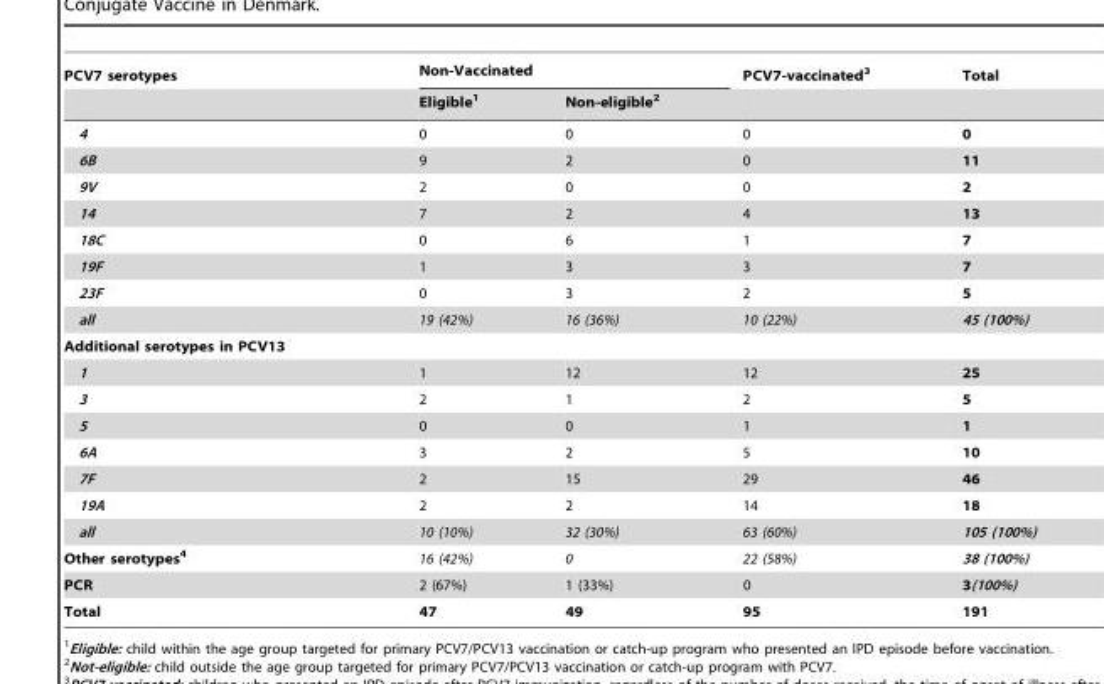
<table><thead><tr><td rowspan="2">PCV7 serotypes</td><td colspan="2">Non-Vaccinated</td><td rowspan="2">PCV7-vaccinated<sup>3</sup></td><td rowspan="2">Total</td></tr><tr><td>Eligible<sup>1</sup></td><td>Non-eligible<sup>2</sup></td></tr></thead><tbody><tr><td>4</td><td>0</td><td>0</td><td>0</td><td>0</td></tr><tr><td>6B</td><td>9</td><td>2</td><td>0</td><td>11</td></tr><tr><td>9V</td><td>2</td><td>0</td><td>0</td><td>2</td></tr><tr><td>14</td><td>7</td><td>2</td><td>4</td><td>13</td></tr><tr><td>18C</td><td>0</td><td>6</td><td>1</td><td>7</td></tr><tr><td>19F</td><td>1</td><td>3</td><td>3</td><td>7</td></tr><tr><td>23F</td><td>0</td><td>3</td><td>2</td><td>5</td></tr><tr><td>all</td><td>19 (42%)</td><td>16 (36%)</td><td>10 (22%)</td><td>45 (100%)</td></tr><tr><td colspan="5">Additional serotypes in PCV13</td></tr><tr><td>1</td><td>1</td><td>12</td><td>12</td><td>25</td></tr><tr><td>3</td><td>2</td><td>1</td><td>2</td><td>5</td></tr><tr><td>5</td><td>0</td><td>0</td><td>1</td><td>1</td></tr><tr><td>6A</td><td>3</td><td>2</td><td>5</td><td>10</td></tr><tr><td>7F</td><td>2</td><td>15</td><td>29</td><td>46</td></tr><tr><td>19A</td><td>2</td><td>2</td><td>14</td><td>18</td></tr><tr><td>all</td><td>10 (10%)</td><td>32 (30%)</td><td>63 (60%)</td><td>105 (100%)</td></tr><tr><td>Other serotypes4</td><td>16 (42%)</td><td>0</td><td>22 (58%)</td><td>38 (100%)</td></tr><tr><td>PCR</td><td>2 (67%)</td><td>1 (33%)</td><td>0</td><td>3(100%)</td></tr><tr><td>Total</td><td>47</td><td>49</td><td>95</td><td>191</td></tr></tbody></table>